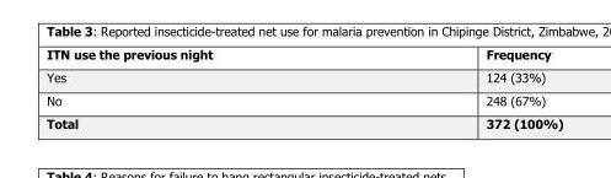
<table><thead><tr><td>ITN use the previous night</td><td>Frequency</td></tr></thead><tbody><tr><td>Yes</td><td>124 (33%)</td></tr><tr><td>No</td><td>248 (67%)</td></tr><tr><td>Total</td><td>372 (100%)</td></tr></tbody></table>